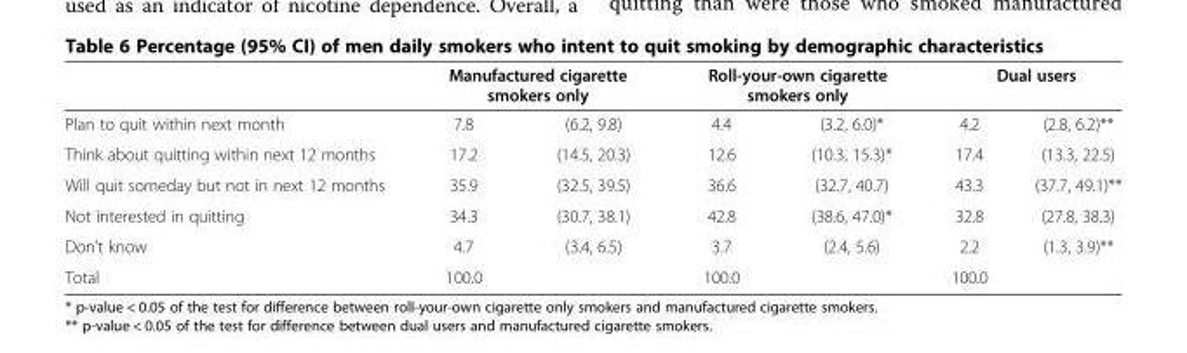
<table><thead><tr><td rowspan="2">Plan to quit within next month</td><td colspan="2">Manufactured cigarette smokers only</td><td colspan="2">Roll-your-own cigarette smokers only</td><td colspan="2">Dual users</td></tr><tr><td>7.8</td><td>(6.2, 9.8)</td><td>4.4</td><td>(3.2, 6.0)*</td><td>4.2</td><td>(2.8, 6.2)**</td></tr></thead><tbody><tr><td>Think about quitting within next 12 months</td><td>17.2</td><td>(14.5, 20.3)</td><td>12.6</td><td>(10.3, 15.3)*</td><td>17.4</td><td>(13.3, 22.5)</td></tr><tr><td>Will quit someday but not in next 12 months</td><td>35.9</td><td>(32.5, 39.5)</td><td>36.6</td><td>(32.7, 40.7)</td><td>43.3</td><td>(37.7, 49.1)**</td></tr><tr><td>Not interested in quitting</td><td>34.3</td><td>(30.7, 38.1)</td><td>42.8</td><td>(38.6, 47.0)*</td><td>32.8</td><td>(27.8, 38.3)</td></tr><tr><td>Don’t know</td><td>4.7</td><td>(3.4, 6.5)</td><td>3.7</td><td>(2.4, 5.6)</td><td>2.2</td><td>(1.3, 3.9)**</td></tr><tr><td>Total</td><td>100.0</td><td></td><td>100.0</td><td></td><td>100.0</td><td></td></tr></tbody></table>